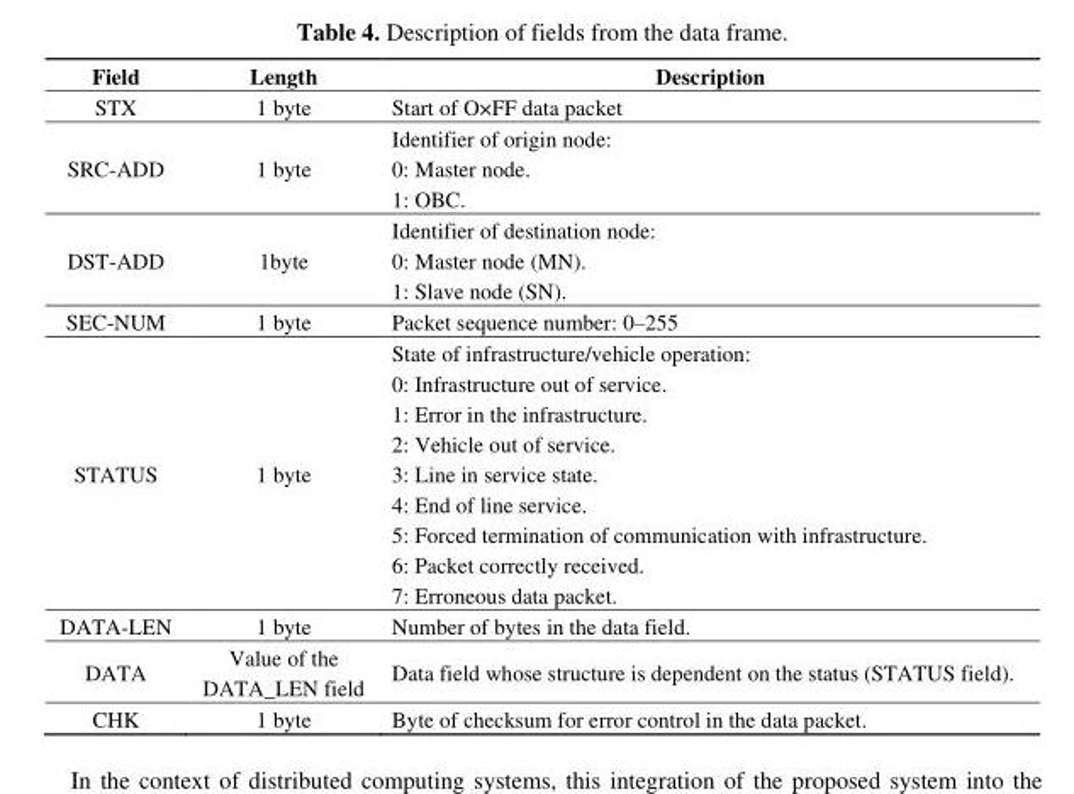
<table><thead><tr><td>Field</td><td>Length</td><td>Description</td></tr></thead><tbody><tr><td>STX</td><td>1 byte</td><td>Start of O×FF data packet</td></tr><tr><td rowspan="3">SRC-ADD</td><td rowspan="3">1 byte</td><td>Identifier of origin node:</td></tr><tr><td>0: Master node.</td></tr><tr><td>1: OBC.</td></tr><tr><td rowspan="3">DST-ADD</td><td rowspan="3">1byte</td><td>Identifier of destination node:</td></tr><tr><td>0: Master node (MN).</td></tr><tr><td>1: Slave node (SN).</td></tr><tr><td>SEC-NUM</td><td>1 byte</td><td>Packet sequence number: 0–255</td></tr><tr><td rowspan="9">STATUS</td><td rowspan="9">1 byte</td><td>State of infrastructure/vehicle operation:</td></tr><tr><td>0: Infrastructure out of service.</td></tr><tr><td>1: Error in the infrastructure.</td></tr><tr><td>2: Vehicle out of service.</td></tr><tr><td>3: Line in service state.</td></tr><tr><td>4: End of line service.</td></tr><tr><td>5: Forced termination of communication with infrastructure.</td></tr><tr><td>6: Packet correctly received.</td></tr><tr><td>7: Erroneous data packet.</td></tr><tr><td>DATA-LEN</td><td>1 byte</td><td>Number of bytes in the data field.</td></tr><tr><td>DATA</td><td>Value of the DATA_LEN field</td><td>Data field whose structure is dependent on the status (STATUS field).</td></tr><tr><td>CHK</td><td>1 byte</td><td>Byte of checksum for error control in the data packet.</td></tr></tbody></table>